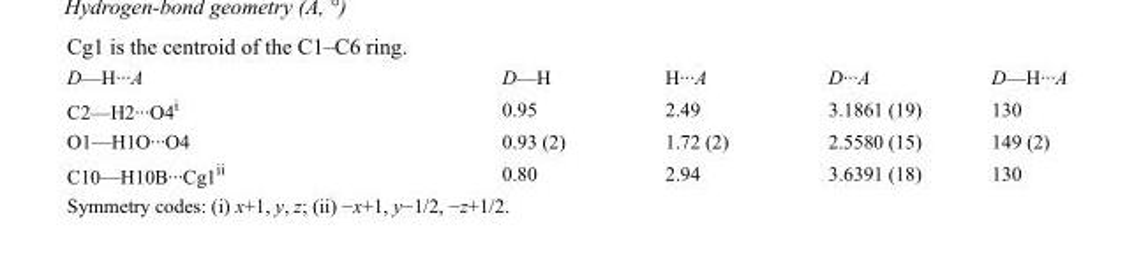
<table><tbody><tr><td>D—H···A</td><td>D—H</td><td>H···A</td><td>D···A</td><td>D—H···A</td></tr><tr><td>C2—H2···O4<sup>i</sup></td><td>0.95</td><td>2.49</td><td>3.1861 (19)</td><td>130</td></tr><tr><td>O1—H1O···O4</td><td>0.93 (2)</td><td>1.72 (2)</td><td>2.5580 (15)</td><td>149 (2)</td></tr><tr><td>C10—H10B···Cg1<sup>ii</sup></td><td>0.80</td><td>2.94</td><td>3.6391 (18)</td><td>130</td></tr></tbody></table>